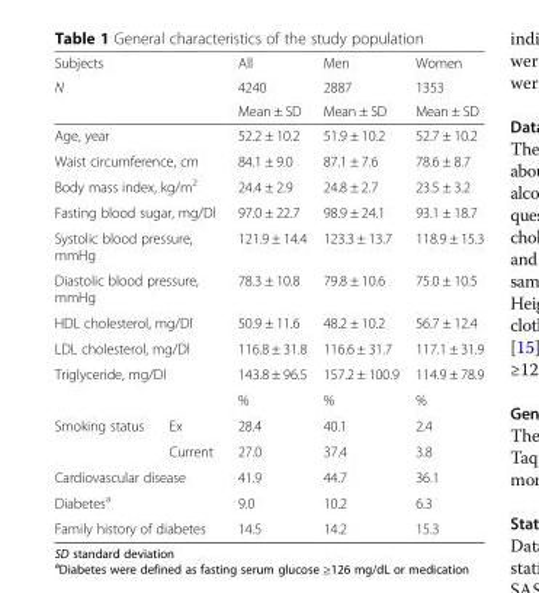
<table><thead><tr><td rowspan="2" colspan="2">Subjects N</td><td rowspan="3">All 4240 Mean ± SD</td><td rowspan="3">Men 2887 Mean ± SD</td><td rowspan="3">Women 1353 Mean ± SD</td></tr><tr></tr><tr><td></td><td></td></tr></thead><tbody><tr><td colspan="2">Age, year</td><td>52.2 ± 10.2</td><td>51.9 ± 10.2</td><td>52.7 ± 10.2</td></tr><tr><td colspan="2">Waist circumference, cm</td><td>84.1 ± 9.0</td><td>87.1 ± 7.6</td><td>78.6 ± 8.7</td></tr><tr><td colspan="2">Body mass index, kg/m<sup>2</sup></td><td>24.4 ± 2.9</td><td>24.8 ± 2.7</td><td>23.5 ± 3.2</td></tr><tr><td colspan="2">Fasting blood sugar, mg/Dl</td><td>97.0 ± 22.7</td><td>98.9 ± 24.1</td><td>93.1 ± 18.7</td></tr><tr><td colspan="2">Systolic blood pressure, mmHg</td><td>121.9 ± 14.4</td><td>123.3 ± 13.7</td><td>118.9 ± 15.3</td></tr><tr><td colspan="2">Diastolic blood pressure, mmHg</td><td>78.3 ± 10.8</td><td>79.8 ± 10.6</td><td>75.0 ± 10.5</td></tr><tr><td colspan="2">HDL cholesterol, mg/Dl</td><td>50.9 ± 11.6</td><td>48.2 ± 10.2</td><td>56.7 ± 12.4</td></tr><tr><td colspan="2">LDL cholesterol, mg/Dl</td><td>116.8 ± 31.8</td><td>116.6 ± 31.7</td><td>117.1 ± 31.9</td></tr><tr><td rowspan="2" colspan="2">Triglyceride, mg/Dl</td><td>143.8 ± 96.5</td><td>157.2 ± 100.9</td><td>114.9 ± 78.9</td></tr><tr><td>%</td><td>%</td><td>%</td></tr><tr><td rowspan="2">Smoking status</td><td>Ex</td><td>28.4</td><td>40.1</td><td>2.4</td></tr><tr><td>Current</td><td>27.0</td><td>37.4</td><td>3.8</td></tr><tr><td colspan="2">Cardiovascular disease</td><td>41.9</td><td>44.7</td><td>36.1</td></tr><tr><td colspan="2">Diabetes<sup>a</sup></td><td>9.0</td><td>10.2</td><td>6.3</td></tr><tr><td colspan="2">Family history of diabetes</td><td>14.5</td><td>14.2</td><td>15.3</td></tr></tbody></table>